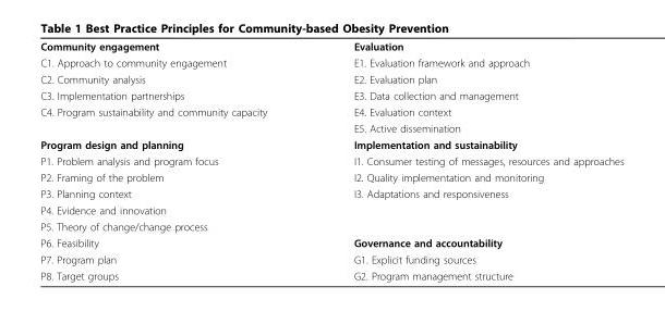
<table><tbody><tr><td>Community engagement</td><td>Evaluation</td></tr><tr><td>C1. Approach to community engagement</td><td>E1. Evaluation framework and approach</td></tr><tr><td>C2. Community analysis</td><td>E2. Evaluation plan</td></tr><tr><td>C3. Implementation partnerships</td><td>E3. Data collection and management</td></tr><tr><td rowspan="2">C4. Program sustainability and community capacity</td><td>E4. Evaluation context</td></tr><tr><td>E5. Active dissemination</td></tr><tr><td>Program design and planning</td><td>Implementation and sustainability</td></tr><tr><td>P1. Problem analysis and program focus</td><td>I1. Consumer testing of messages, resources and approaches</td></tr><tr><td>P2. Framing of the problem</td><td>I2. Quality implementation and monitoring</td></tr><tr><td>P3. Planning context</td><td>I3. Adaptations and responsiveness</td></tr><tr><td colspan="2">P4. Evidence and innovation</td></tr><tr><td colspan="2">P5. Theory of change/change process</td></tr><tr><td>P6. Feasibility</td><td>Governance and accountability</td></tr><tr><td>P7. Program plan</td><td>G1. Explicit funding sources</td></tr><tr><td>P8. Target groups</td><td>G2. Program management structure</td></tr></tbody></table>